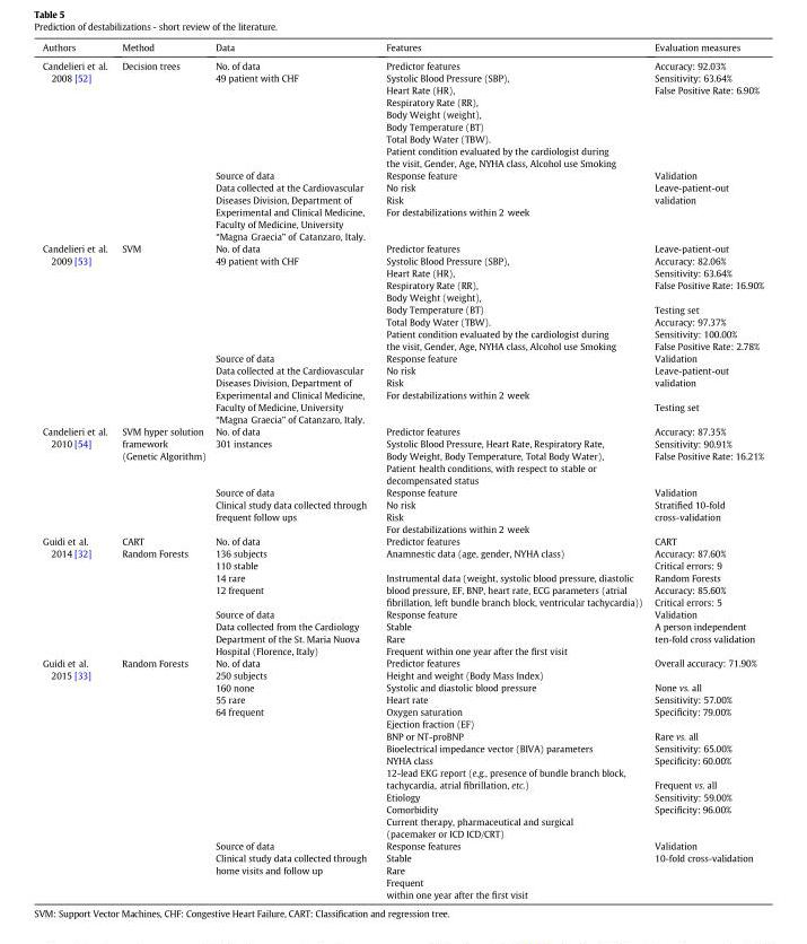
<table><thead><tr><td>Authors</td><td>Method</td><td>Data</td><td>Features</td><td>Evaluation measures</td></tr></thead><tbody><tr><td rowspan="3">Candelieri et al. 2008 [52]</td><td rowspan="3">Decision trees</td><td>No. of data 49 patient with CHF</td><td>Predictor features Systolic Blood Pressure (SBP), Heart Rate (HR), Respiratory Rate (RR), Body Weight (weight), Body Temperature (BT) Total Body Water (TBW). Patient condition evaluated by the cardiologist during the visit, Gender, Age, NYHA class, Alcohol use Smoking</td><td>Accuracy: 92.03% Sensitivity: 63.64% False Positive Rate: 6.90%</td></tr><tr><td rowspan="2">Source of data Data collected at the Cardiovascular Diseases Division, Department of Experimental and Clinical Medicine, Faculty of Medicine, University “Magna Graecia” of Catanzaro, Italy.</td><td rowspan="2">Response feature No risk Risk For destabilizations within 2 week</td><td>Validation</td></tr><tr><td>Leave-patient-out validation</td></tr><tr><td rowspan="3">Candelieri et al. 2009 [53]</td><td rowspan="3">SVM</td><td>No. of data 49 patient with CHF</td><td>Predictor features Systolic Blood Pressure (SBP), Heart Rate (HR), Respiratory Rate (RR), Body Weight (weight), Body Temperature (BT) Total Body Water (TBW). Patient condition evaluated by the cardiologist during the visit, Gender, Age, NYHA class, Alcohol use Smoking</td><td>Leave-patient-out Accuracy: 82.06% Sensitivity: 63.64% False Positive Rate: 16.90% Testing set Accuracy: 97.37% Sensitivity: 100.00% False Positive Rate: 2.78%</td></tr><tr><td rowspan="2">Source of data Data collected at the Cardiovascular Diseases Division, Department of Experimental and Clinical Medicine, Faculty of Medicine, University “Magna Graecia” of Catanzaro, Italy.</td><td rowspan="2">Response feature No risk Risk For destabilizations within 2 week</td><td>Validation</td></tr><tr><td>Leave-patient-out validation Testing set</td></tr><tr><td rowspan="3">Candelieri et al. 2010 [54]</td><td rowspan="3">SVM hyper solution framework (Genetic Algorithm)</td><td>No. of data 301 instances</td><td>Predictor features Systolic Blood Pressure, Heart Rate, Respiratory Rate, Body Weight, Body Temperature, Total Body Water), Patient health conditions, with respect to stable or decompensated status</td><td>Accuracy: 87.35% Sensitivity: 90.91% False Positive Rate: 16.21%</td></tr><tr><td rowspan="2">Source of data Clinical study data collected through frequent follow ups</td><td rowspan="2">Response feature No risk Risk For destabilizations within 2 week</td><td>Validation</td></tr><tr><td>Stratified 10-fold cross-validation</td></tr><tr><td rowspan="4">Guidi et al. 2014 [32]</td><td rowspan="4">CART Random Forests</td><td rowspan="2">No. of data 136 subjects 110 stable 14 rare 12 frequent</td><td rowspan="2">Predictor features Anamnestic data (age, gender, NYHA class) Instrumental data (weight, systolic blood pressure, diastolic blood pressure, EF, BNP, heart rate, ECG parameters (atrial fibrillation, left bundle branch block, ventricular tachycardia))</td><td>CART Accuracy: 87.60% Critical errors: 9</td></tr><tr><td>Random Forests Accuracy: 85.60% Critical errors: 5</td></tr><tr><td rowspan="2">Source of data Data collected from the Cardiology Department of the St. Maria Nuova Hospital (Florence, Italy)</td><td rowspan="2">Response feature Stable Rare Frequent within one year after the first visit</td><td>Validation</td></tr><tr><td>A person independent ten-fold cross validation</td></tr><tr><td rowspan="3">Guidi et al. 2015 [33]</td><td rowspan="3">Random Forests</td><td>No. of data 250 subjects 160 none 55 rare 64 frequent</td><td>Predictor features Height and weight (Body Mass Index) Systolic and diastolic blood pressure Heart rate Oxygen saturation Ejection fraction (EF) BNP or NT-proBNP Bioelectrical impedance vector (BIVA) parameters NYHA class 12-lead EKG report (e.g., presence of bundle branch block, tachycardia, atrial fibrillation, etc.) Etiology Comorbidity Current therapy, pharmaceutical and surgical (pacemaker or ICD ICD/CRT)</td><td>Overall accuracy: 71.90% None vs. all Sensitivity: 57.00% Specificity: 79.00% Rare vs. all Sensitivity: 65.00% Specificity: 60.00% Frequent vs. all Sensitivity: 59.00% Specificity: 96.00%</td></tr><tr><td rowspan="2">Source of data Clinical study data collected through home visits and follow up</td><td rowspan="2">Response features Stable Rare Frequent within one year after the first visit</td><td>Validation</td></tr><tr><td>10-fold cross-validation</td></tr></tbody></table>